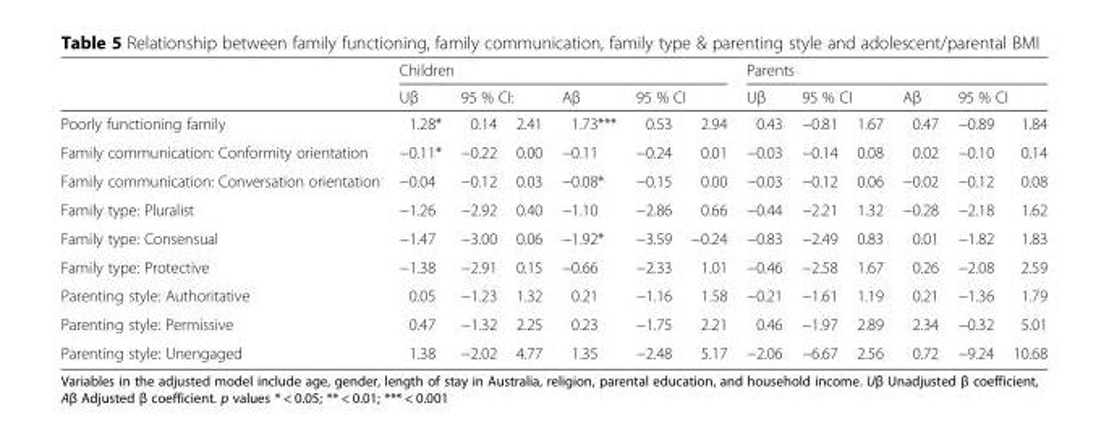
<table><thead><tr><td rowspan="3">Poorly functioning family</td><td colspan="6">Children</td><td colspan="6">Parents</td></tr><tr><td rowspan="2">Uβ 1.28*</td><td colspan="2">95 % CI:</td><td rowspan="2">Aβ 1.73***</td><td colspan="2">95 % CI</td><td rowspan="2">Uβ 0.43</td><td colspan="2">95 % CI</td><td rowspan="2">Aβ 0.47</td><td colspan="2">95 % CI</td></tr><tr><td>0.14</td><td>2.41</td><td>0.53</td><td>2.94</td><td>−0.81</td><td>1.67</td><td>−0.89</td><td>1.84</td></tr></thead><tbody><tr><td>Family communication: Conformity orientation</td><td>−0.11*</td><td>−0.22</td><td>0.00</td><td>−0.11</td><td>−0.24</td><td>0.01</td><td>−0.03</td><td>−0.14</td><td>0.08</td><td>0.02</td><td>−0.10</td><td>0.14</td></tr><tr><td>Family communication: Conversation orientation</td><td>−0.04</td><td>−0.12</td><td>0.03</td><td>−0.08*</td><td>−0.15</td><td>0.00</td><td>−0.03</td><td>−0.12</td><td>0.06</td><td>−0.02</td><td>−0.12</td><td>0.08</td></tr><tr><td>Family type: Pluralist</td><td>−1.26</td><td>−2.92</td><td>0.40</td><td>−1.10</td><td>−2.86</td><td>0.66</td><td>−0.44</td><td>−2.21</td><td>1.32</td><td>−0.28</td><td>−2.18</td><td>1.62</td></tr><tr><td>Family type: Consensual</td><td>−1.47</td><td>−3.00</td><td>0.06</td><td>−1.92*</td><td>−3.59</td><td>−0.24</td><td>−0.83</td><td>−2.49</td><td>0.83</td><td>0.01</td><td>−1.82</td><td>1.83</td></tr><tr><td>Family type: Protective</td><td>−1.38</td><td>−2.91</td><td>0.15</td><td>−0.66</td><td>−2.33</td><td>1.01</td><td>−0.46</td><td>−2.58</td><td>1.67</td><td>0.26</td><td>−2.08</td><td>2.59</td></tr><tr><td>Parenting style: Authoritative</td><td>0.05</td><td>−1.23</td><td>1.32</td><td>0.21</td><td>−1.16</td><td>1.58</td><td>−0.21</td><td>−1.61</td><td>1.19</td><td>0.21</td><td>−1.36</td><td>1.79</td></tr><tr><td>Parenting style: Permissive</td><td>0.47</td><td>−1.32</td><td>2.25</td><td>0.23</td><td>−1.75</td><td>2.21</td><td>0.46</td><td>−1.97</td><td>2.89</td><td>2.34</td><td>−0.32</td><td>5.01</td></tr><tr><td>Parenting style: Unengaged</td><td>1.38</td><td>−2.02</td><td>4.77</td><td>1.35</td><td>−2.48</td><td>5.17</td><td>−2.06</td><td>−6.67</td><td>2.56</td><td>0.72</td><td>−9.24</td><td>10.68</td></tr></tbody></table>